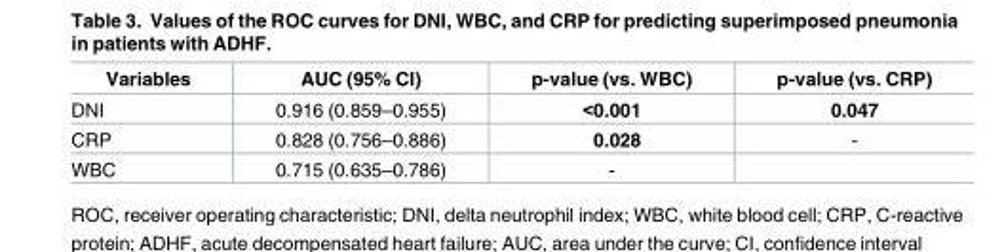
<table><thead><tr><td>Variables</td><td>AUC (95% CI)</td><td>p-value (vs. WBC)</td><td>p-value (vs. CRP)</td></tr></thead><tbody><tr><td>DNI</td><td>0.916 (0.859–0.955)</td><td>&lt;0.001</td><td>0.047</td></tr><tr><td>CRP</td><td>0.828 (0.756–0.886)</td><td>0.028</td><td>-</td></tr><tr><td>WBC</td><td>0.715 (0.635–0.786)</td><td>-</td><td></td></tr></tbody></table>